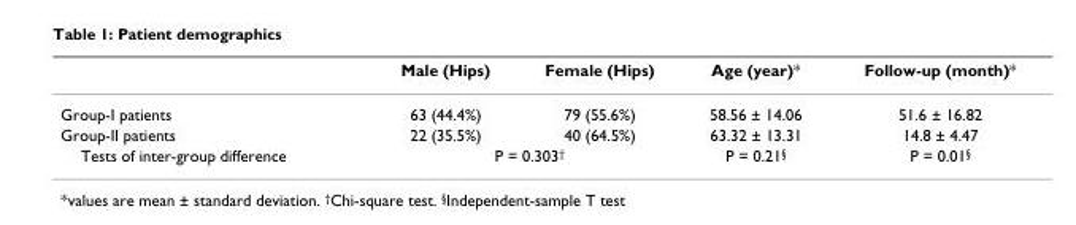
<table><thead><tr><td></td><td>Male (Hips)</td><td>Female (Hips)</td><td>Age (year)*</td><td>Follow-up (month)*</td></tr></thead><tbody><tr><td>Group-I patients</td><td>63 (44.4%)</td><td>79 (55.6%)</td><td>58.56 ± 14.06</td><td>51.6 ± 16.82</td></tr><tr><td>Group-II patients</td><td>22 (35.5%)</td><td>40 (64.5%)</td><td>63.32 ± 13.31</td><td>14.8 ± 4.47</td></tr><tr><td>Tests of inter-group difference</td><td colspan="2">P = 0.303<sup>†</sup></td><td>P = 0.21<sup>§</sup></td><td>P = 0.01<sup>§</sup></td></tr></tbody></table>